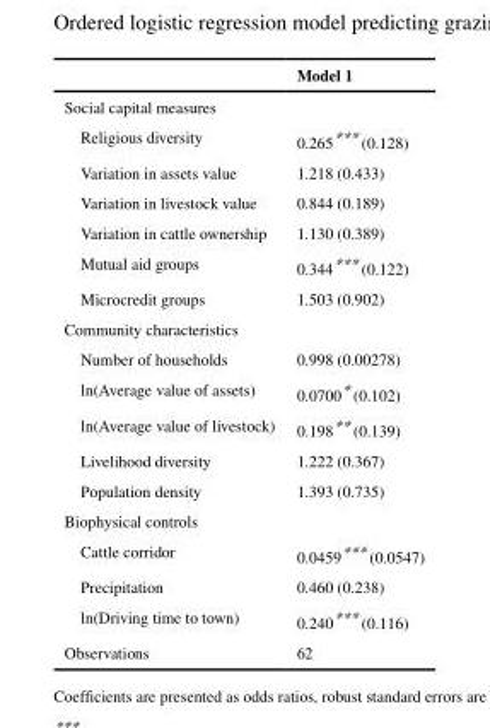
<table><thead><tr><td></td><td>Model 1</td></tr></thead><tbody><tr><td colspan="2">Social capital measures</td></tr><tr><td>Religious diversity</td><td>0.265*** (0.128)</td></tr><tr><td>Variation in assets value</td><td>1.218 (0.433)</td></tr><tr><td>Variation in livestock value</td><td>0.844 (0.189)</td></tr><tr><td>Variation in cattle ownership</td><td>1.130 (0.389)</td></tr><tr><td>Mutual aid groups</td><td>0.344*** (0.122)</td></tr><tr><td>Microcredit groups</td><td>1.503 (0.902)</td></tr><tr><td colspan="2">Community characteristics</td></tr><tr><td>Number of households</td><td>0.998 (0.00278)</td></tr><tr><td>ln(Average value of assets)</td><td>0.0700* (0.102)</td></tr><tr><td>ln(Average value of livestock)</td><td>0.198** (0.139)</td></tr><tr><td>Livelihood diversity</td><td>1.222 (0.367)</td></tr><tr><td>Population density</td><td>1.393 (0.735)</td></tr><tr><td colspan="2">Biophysical controls</td></tr><tr><td>Cattle corridor</td><td>0.0459*** (0.0547)</td></tr><tr><td>Precipitation</td><td>0.460 (0.238)</td></tr><tr><td>ln(Driving time to town)</td><td>0.240*** (0.116)</td></tr><tr><td>Observations</td><td>62</td></tr></tbody></table>